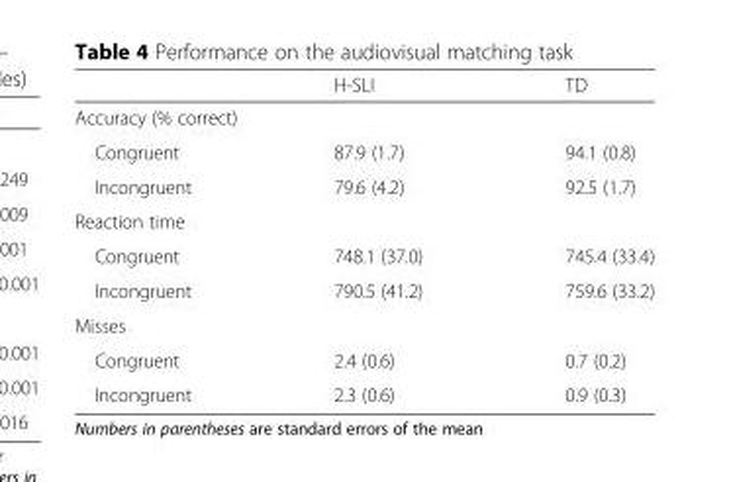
<table><thead><tr><td></td><td>H-SLI</td><td>TD</td></tr></thead><tbody><tr><td colspan="3">Accuracy (% correct)</td></tr><tr><td>Congruent</td><td>87.9 (1.7)</td><td>94.1 (0.8)</td></tr><tr><td>Incongruent</td><td>79.6 (4.2)</td><td>92.5 (1.7)</td></tr><tr><td colspan="3">Reaction time</td></tr><tr><td>Congruent</td><td>748.1 (37.0)</td><td>745.4 (33.4)</td></tr><tr><td>Incongruent</td><td>790.5 (41.2)</td><td>759.6 (33.2)</td></tr><tr><td colspan="3">Misses</td></tr><tr><td>Congruent</td><td>2.4 (0.6)</td><td>0.7 (0.2)</td></tr><tr><td>Incongruent</td><td>2.3 (0.6)</td><td>0.9 (0.3)</td></tr></tbody></table>